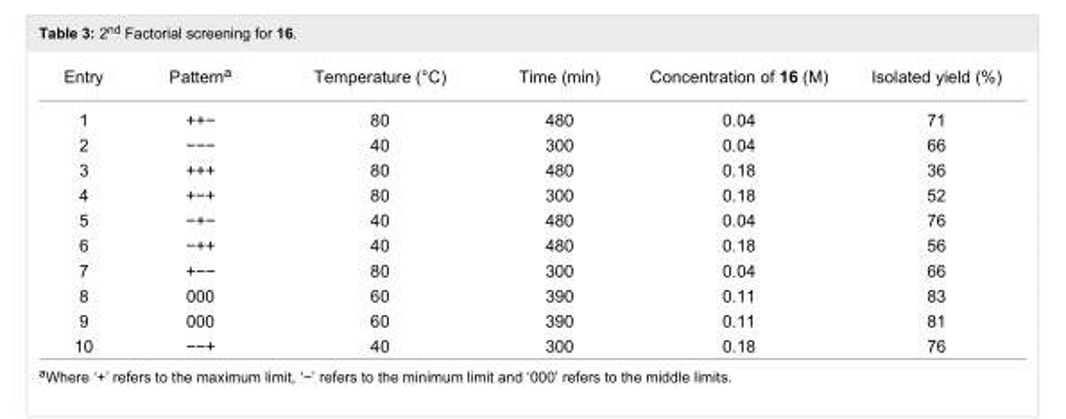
<table><tbody><tr><td>Entry</td><td>Pattern<sup>a</sup></td><td>Temperature (°C)</td><td>Time (min)</td><td>Concentration of 16 (M)</td><td>Isolated yield (%)</td></tr><tr><td>1</td><td>++−</td><td>80</td><td>480</td><td>0.04</td><td>71</td></tr><tr><td>2</td><td>−−−</td><td>40</td><td>300</td><td>0.04</td><td>66</td></tr><tr><td>3</td><td>+++</td><td>80</td><td>480</td><td>0.18</td><td>36</td></tr><tr><td>4</td><td>+−+</td><td>80</td><td>300</td><td>0.18</td><td>52</td></tr><tr><td>5</td><td>−+−</td><td>40</td><td>480</td><td>0.04</td><td>76</td></tr><tr><td>6</td><td>−++</td><td>40</td><td>480</td><td>0.18</td><td>56</td></tr><tr><td>7</td><td>+−−</td><td>80</td><td>300</td><td>0.04</td><td>66</td></tr><tr><td>8</td><td>000</td><td>60</td><td>390</td><td>0.11</td><td>83</td></tr><tr><td>9</td><td>000</td><td>60</td><td>390</td><td>0.11</td><td>81</td></tr><tr><td>10</td><td>−−+</td><td>40</td><td>300</td><td>0.18</td><td>76</td></tr></tbody></table>